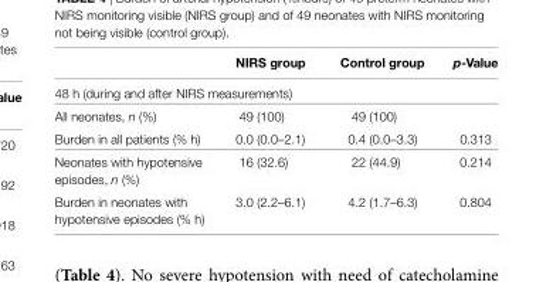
<table><thead><tr><td></td><td>nirS group</td><td>Control group</td><td>p-Value</td></tr></thead><tbody><tr><td colspan="4">48 h (during and after NIRS measurements)</td></tr><tr><td>All neonates, n (%)</td><td>49 (100)</td><td>49 (100)</td><td></td></tr><tr><td>Burden in all patients (% h)</td><td>0.0 (0.0–2.1)</td><td>0.4 (0.0–3.3)</td><td>0.313</td></tr><tr><td>Neonates with hypotensive episodes, n (%)</td><td>16 (32.6)</td><td>22 (44.9)</td><td>0.214</td></tr><tr><td>Burden in neonates with hypotensive episodes (% h)</td><td>3.0 (2.2–6.1)</td><td>4.2 (1.7–6.3)</td><td>0.804</td></tr></tbody></table>